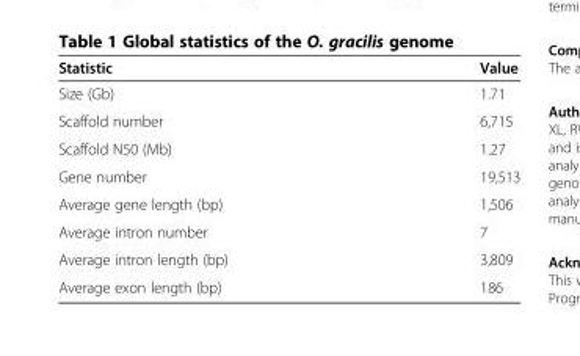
<table><thead><tr><td>Statistic</td><td>Value</td></tr></thead><tbody><tr><td>Size (Gb)</td><td>1.71</td></tr><tr><td>Scaffold number</td><td>6,715</td></tr><tr><td>Scaffold N50 (Mb)</td><td>1.27</td></tr><tr><td>Gene number</td><td>19,513</td></tr><tr><td>Average gene length (bp)</td><td>1,506</td></tr><tr><td>Average intron number</td><td>7</td></tr><tr><td>Average intron length (bp)</td><td>3,809</td></tr><tr><td>Average exon length (bp)</td><td>186</td></tr></tbody></table>